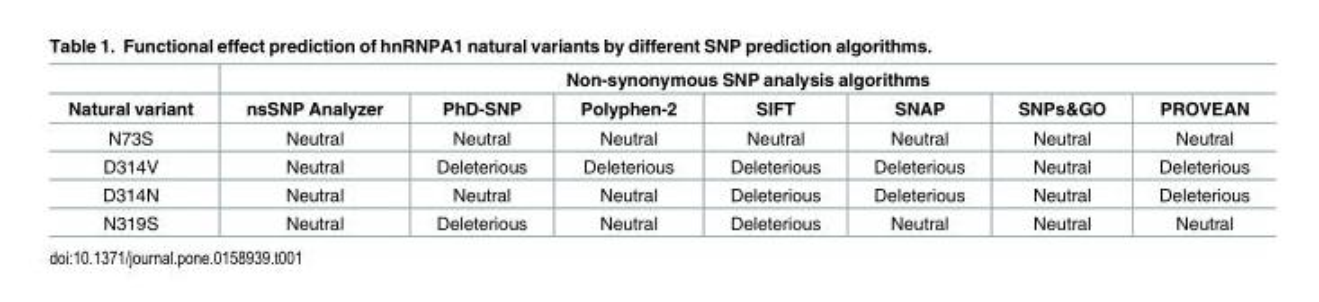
<table><thead><tr><td rowspan="2">Natural variant</td><td colspan="7">Non-synonymous SNP analysis algorithms</td></tr><tr><td>nsSNP Analyzer</td><td>PhD-SNP</td><td>Polyphen-2</td><td>SIFT</td><td>SNAP</td><td>SNPs&amp;GO</td><td>PROVEAN</td></tr></thead><tbody><tr><td>N73S</td><td>Neutral</td><td>Neutral</td><td>Neutral</td><td>Neutral</td><td>Neutral</td><td>Neutral</td><td>Neutral</td></tr><tr><td>D314V</td><td>Neutral</td><td>Deleterious</td><td>Deleterious</td><td>Deleterious</td><td>Deleterious</td><td>Neutral</td><td>Deleterious</td></tr><tr><td>D314N</td><td>Neutral</td><td>Neutral</td><td>Neutral</td><td>Deleterious</td><td>Deleterious</td><td>Neutral</td><td>Deleterious</td></tr><tr><td>N319S</td><td>Neutral</td><td>Deleterious</td><td>Neutral</td><td>Deleterious</td><td>Neutral</td><td>Neutral</td><td>Neutral</td></tr></tbody></table>